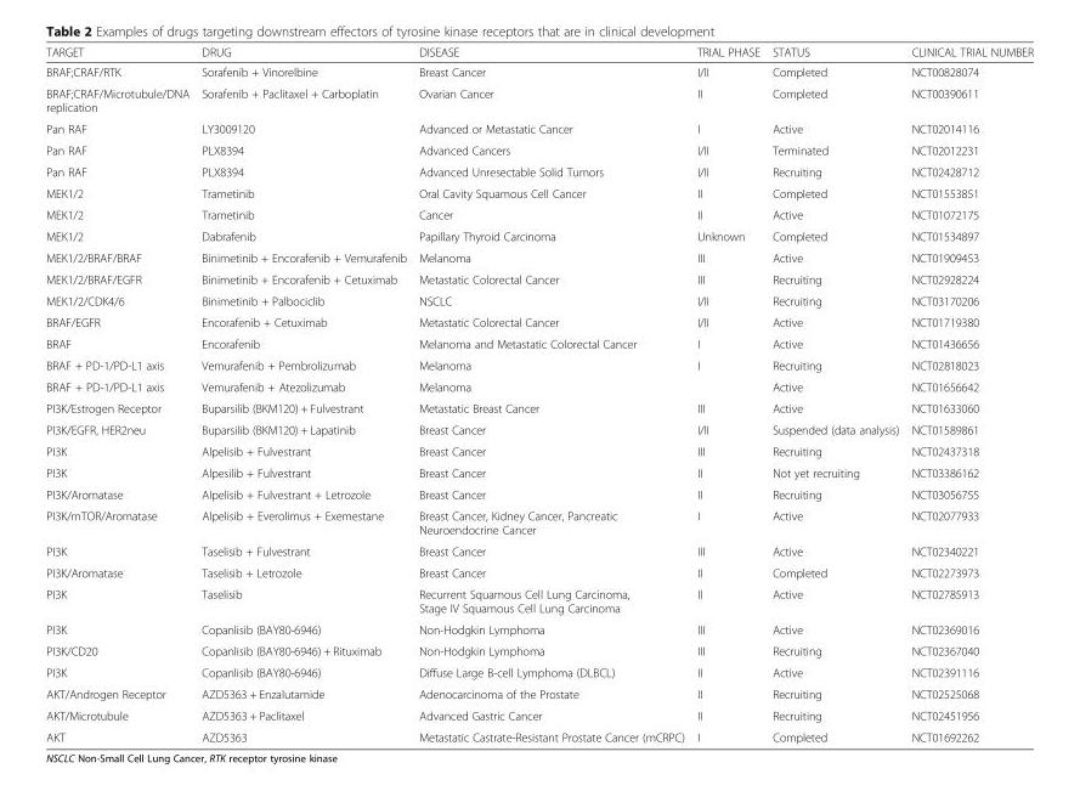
<table><thead><tr><td>TARGET</td><td>DRUG</td><td>DISEASE</td><td>TRIAL PHASE</td><td>STATUS</td><td>CLINICAL TRIAL NUMBER</td></tr></thead><tbody><tr><td>BRAF;CRAF/RTK</td><td>Sorafenib + Vinorelbine</td><td>Breast Cancer</td><td>I/II</td><td>Completed</td><td>NCT00828074</td></tr><tr><td>BRAF;CRAF/Microtubule/DNA replication</td><td>Sorafenib + Paclitaxel + Carboplatin</td><td>Ovarian Cancer</td><td>II</td><td>Completed</td><td>NCT00390611</td></tr><tr><td>Pan RAF</td><td>LY3009120</td><td>Advanced or Metastatic Cancer</td><td>I</td><td>Active</td><td>NCT02014116</td></tr><tr><td>Pan RAF</td><td>PLX8394</td><td>Advanced Cancers</td><td>I/II</td><td>Terminated</td><td>NCT02012231</td></tr><tr><td>Pan RAF</td><td>PLX8394</td><td>Advanced Unresectable Solid Tumors</td><td>I/II</td><td>Recruiting</td><td>NCT02428712</td></tr><tr><td>MEK1/2</td><td>Trametinib</td><td>Oral Cavity Squamous Cell Cancer</td><td>II</td><td>Completed</td><td>NCT01553851</td></tr><tr><td>MEK1/2</td><td>Trametinib</td><td>Cancer</td><td>II</td><td>Active</td><td>NCT01072175</td></tr><tr><td>MEK1/2</td><td>Dabrafenib</td><td>Papillary Thyroid Carcinoma</td><td>Unknown</td><td>Completed</td><td>NCT01534897</td></tr><tr><td>MEK1/2/BRAF/BRAF</td><td>Binimetinib + Encorafenib + Vemurafenib</td><td>Melanoma</td><td>III</td><td>Active</td><td>NCT01909453</td></tr><tr><td>MEK1/2/BRAF/EGFR</td><td>Binimetinib + Encorafenib + Cetuximab</td><td>Metastatic Colorectal Cancer</td><td>III</td><td>Recruiting</td><td>NCT02928224</td></tr><tr><td>MEK1/2/CDK4/6</td><td>Binimetinib + Palbociclib</td><td>NSCLC</td><td>I/II</td><td>Recruiting</td><td>NCT03170206</td></tr><tr><td>BRAF/EGFR</td><td>Encorafenib + Cetuximab</td><td>Metastatic Colorectal Cancer</td><td>I/II</td><td>Active</td><td>NCT01719380</td></tr><tr><td>BRAF</td><td>Encorafenib</td><td>Melanoma and Metastatic Colorectal Cancer</td><td>I</td><td>Active</td><td>NCT01436656</td></tr><tr><td>BRAF + PD-1/PD-L1 axis</td><td>Vemurafenib + Pembrolizumab</td><td>Melanoma</td><td>I</td><td>Recruiting</td><td>NCT02818023</td></tr><tr><td>BRAF + PD-1/PD-L1 axis</td><td>Vemurafenib + Atezolizumab</td><td>Melanoma</td><td></td><td>Active</td><td>NCT01656642</td></tr><tr><td>PI3K/Estrogen Receptor</td><td>Buparsilib (BKM120) + Fulvestrant</td><td>Metastatic Breast Cancer</td><td>III</td><td>Active</td><td>NCT01633060</td></tr><tr><td>PI3K/EGFR, HER2neu</td><td>Buparsilib (BKM120) + Lapatinib</td><td>Breast Cancer</td><td>I/II</td><td>Suspended (data analysis)</td><td>NCT01589861</td></tr><tr><td>PI3K</td><td>Alpelisib + Fulvestrant</td><td>Breast Cancer</td><td>III</td><td>Recruiting</td><td>NCT02437318</td></tr><tr><td>PI3K</td><td>Alpesilib + Fulvestrant</td><td>Breast Cancer</td><td>II</td><td>Not yet recruiting</td><td>NCT03386162</td></tr><tr><td>PI3K/Aromatase</td><td>Alpelisib + Fulvestrant + Letrozole</td><td>Breast Cancer</td><td>II</td><td>Recruiting</td><td>NCT03056755</td></tr><tr><td>PI3K/mTOR/Aromatase</td><td>Alpelisib + Everolimus + Exemestane</td><td>Breast Cancer, Kidney Cancer, Pancreatic Neuroendocrine Cancer</td><td>I</td><td>Active</td><td>NCT02077933</td></tr><tr><td>PI3K</td><td>Taselisib + Fulvestrant</td><td>Breast Cancer</td><td>III</td><td>Active</td><td>NCT02340221</td></tr><tr><td>PI3K/Aromatase</td><td>Taselisib + Letrozole</td><td>Breast Cancer</td><td>II</td><td>Completed</td><td>NCT02273973</td></tr><tr><td>PI3K</td><td>Taselisib</td><td>Recurrent Squamous Cell Lung Carcinoma, Stage IV Squamous Cell Lung Carcinoma</td><td>II</td><td>Active</td><td>NCT02785913</td></tr><tr><td>PI3K</td><td>Copanlisib (BAY80-6946)</td><td>Non-Hodgkin Lymphoma</td><td>III</td><td>Active</td><td>NCT02369016</td></tr><tr><td>PI3K/CD20</td><td>Copanlisib (BAY80-6946) + Rituximab</td><td>Non-Hodgkin Lymphoma</td><td>III</td><td>Recruiting</td><td>NCT02367040</td></tr><tr><td>PI3K</td><td>Copanlisib (BAY80-6946)</td><td>Diffuse Large B-cell Lymphoma (DLBCL)</td><td>II</td><td>Active</td><td>NCT02391116</td></tr><tr><td>AKT/Androgen Receptor</td><td>AZD5363 + Enzalutamide</td><td>Adenocarcinoma of the Prostate</td><td>II</td><td>Recruiting</td><td>NCT02525068</td></tr><tr><td>AKT/Microtubule</td><td>AZD5363 + Paclitaxel</td><td>Advanced Gastric Cancer</td><td>II</td><td>Recruiting</td><td>NCT02451956</td></tr><tr><td>AKT</td><td>AZD5363</td><td>Metastatic Castrate-Resistant Prostate Cancer (mCRPC)</td><td>I</td><td>Completed</td><td>NCT01692262</td></tr></tbody></table>